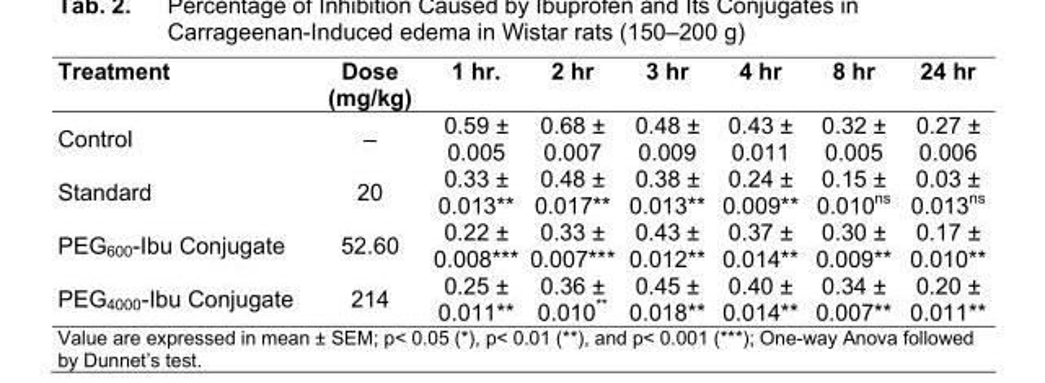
<table><thead><tr><td>Treatment</td><td>Dose (mg/kg)</td><td>1 hr.</td><td>2 hr</td><td>3 hr</td><td>4 hr</td><td>8 hr</td><td>24 hr</td></tr></thead><tbody><tr><td>Control</td><td>–</td><td>0.59 ± 0.005</td><td>0.68 ± 0.007</td><td>0.48 ± 0.009</td><td>0.43 ± 0.011</td><td>0.32 ± 0.005</td><td>0.27 ± 0.006</td></tr><tr><td>Standard</td><td>20</td><td>0.33 ± 0.013**</td><td>0.48 ± 0.017**</td><td>0.38 ± 0.013**</td><td>0.24 ± 0.009**</td><td>0.15 ± 0.010<sup>ns</sup></td><td>0.03 ± 0.013<sup>ns</sup></td></tr><tr><td>PEG<sub>600</sub>-Ibu Conjugate</td><td>52.60</td><td>0.22 ± 0.008***</td><td>0.33 ± 0.007***</td><td>0.43 ± 0.012**</td><td>0.37 ± 0.014**</td><td>0.30 ± 0.009**</td><td>0.17 ± 0.010**</td></tr><tr><td>PEG<sub>4000</sub>-Ibu Conjugate</td><td>214</td><td>0.25 ± 0.011**</td><td>0.36 ± 0.010**</td><td>0.45 ± 0.018**</td><td>0.40 ± 0.014**</td><td>0.34 ± 0.007**</td><td>0.20 ± 0.011**</td></tr></tbody></table>